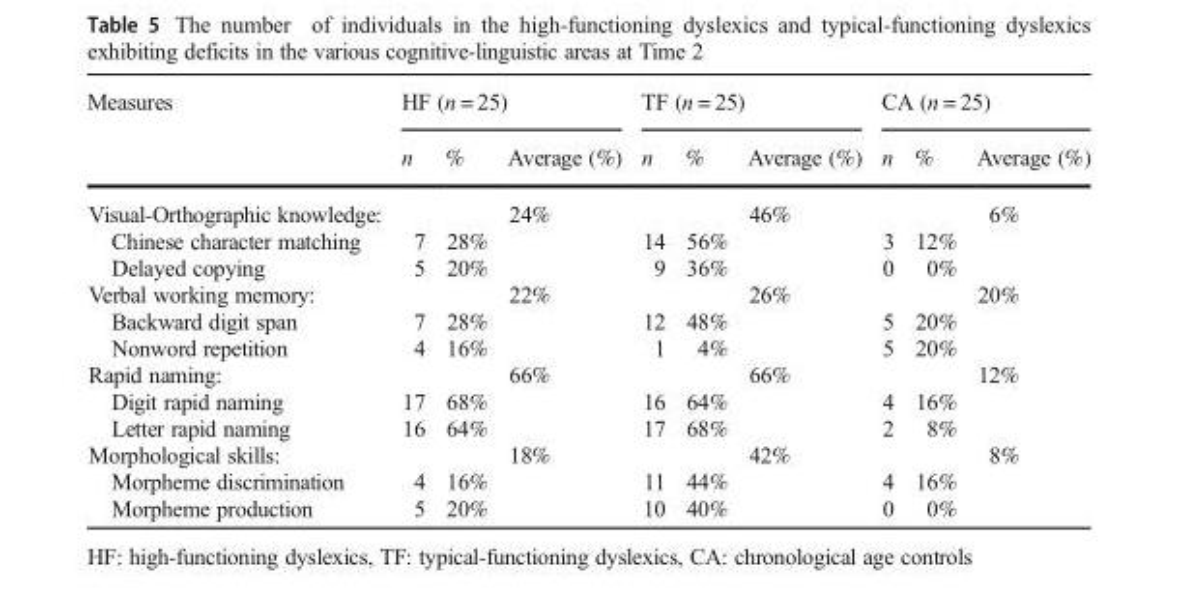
<table><thead><tr><td rowspan="2">Measures</td><td colspan="3">HF (n = 25)</td><td colspan="3">TF (n = 25)</td><td colspan="3">CA (n = 25)</td></tr><tr><td>n</td><td>%</td><td>Average (%)</td><td>n</td><td>%</td><td>Average (%)</td><td>n</td><td>%</td><td>Average (%)</td></tr></thead><tbody><tr><td>Visual-Orthographic knowledge:</td><td></td><td></td><td>24%</td><td></td><td></td><td>46%</td><td></td><td></td><td>6%</td></tr><tr><td>Chinese character matching</td><td>7</td><td>28%</td><td></td><td>14</td><td>56%</td><td></td><td>3</td><td>12%</td><td></td></tr><tr><td>Delayed copying</td><td>5</td><td>20%</td><td></td><td>9</td><td>36%</td><td></td><td>0</td><td>0%</td><td></td></tr><tr><td>Verbal working memory:</td><td></td><td></td><td>22%</td><td></td><td></td><td>26%</td><td></td><td></td><td>20%</td></tr><tr><td>Backward digit span</td><td>7</td><td>28%</td><td></td><td>12</td><td>48%</td><td></td><td>5</td><td>20%</td><td></td></tr><tr><td>Nonword repetition</td><td>4</td><td>16%</td><td></td><td>1</td><td>4%</td><td></td><td>5</td><td>20%</td><td></td></tr><tr><td>Rapid naming:</td><td></td><td></td><td>66%</td><td></td><td></td><td>66%</td><td></td><td></td><td>12%</td></tr><tr><td>Digit rapid naming</td><td>17</td><td>68%</td><td></td><td>16</td><td>64%</td><td></td><td>4</td><td>16%</td><td></td></tr><tr><td>Letter rapid naming</td><td>16</td><td>64%</td><td></td><td>17</td><td>68%</td><td></td><td>2</td><td>8%</td><td></td></tr><tr><td>Morphological skills:</td><td></td><td></td><td>18%</td><td></td><td></td><td>42%</td><td></td><td></td><td>8%</td></tr><tr><td>Morpheme discrimination</td><td>4</td><td>16%</td><td></td><td>11</td><td>44%</td><td></td><td>4</td><td>16%</td><td></td></tr><tr><td>Morpheme production</td><td>5</td><td>20%</td><td></td><td>10</td><td>40%</td><td></td><td>0</td><td>0%</td><td></td></tr></tbody></table>